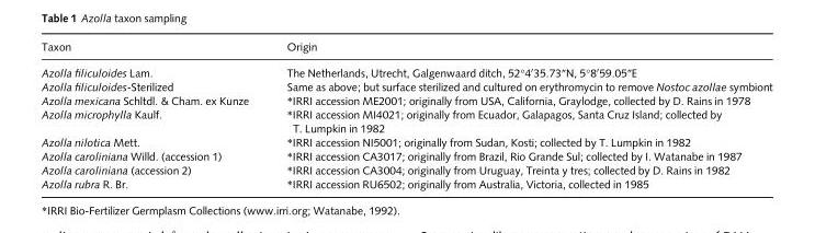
<table><thead><tr><td>Taxon</td><td>Origin</td></tr></thead><tbody><tr><td>Azolla filiculoides Lam.</td><td>The Netherlands, Utrecht, Galgenwaard ditch, 52°4′35.73″N, 5°8′59.05″E</td></tr><tr><td>Azolla filiculoides-Sterilized</td><td>Same as above; but surface sterilized and cultured on erythromycin to remove Nostoc azollae symbiont</td></tr><tr><td>Azolla mexicana Schltdl. &amp; Cham. ex Kunze</td><td>*IRRI accession ME2001; originally from USA, California, Graylodge, collected by D. Rains in 1978</td></tr><tr><td>Azolla microphylla Kaulf.</td><td>*IRRI accession MI4021; originally from Ecuador, Galapagos, Santa Cruz Island; collected by T. Lumpkin in 1982</td></tr><tr><td>Azolla nilotica Mett.</td><td>*IRRI accession NI5001; originally from Sudan, Kosti; collected by T. Lumpkin in 1982</td></tr><tr><td>Azolla caroliniana Willd. (accession 1)</td><td>*IRRI accession CA3017; originally from Brazil, Rio Grande Sul; collected by I. Watanabe in 1987</td></tr><tr><td>Azolla caroliniana (accession 2)</td><td>*IRRI accession CA3004; originally from Uruguay, Treinta y tres; collected by D. Rains in 1982</td></tr><tr><td>Azolla rubra R. Br.</td><td>*IRRI accession RU6502; originally from Australia, Victoria, collected in 1985</td></tr></tbody></table>